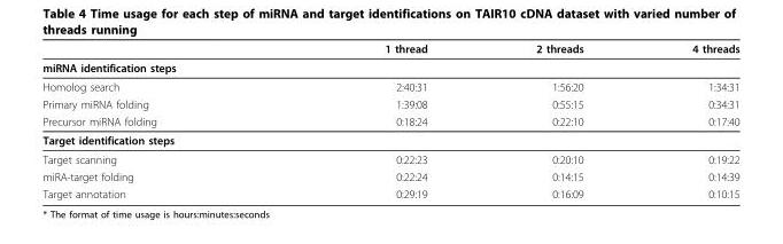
<table><thead><tr><td></td><td>1 thread</td><td>2 threads</td><td>4 threads</td></tr></thead><tbody><tr><td colspan="4">miRNA identification steps</td></tr><tr><td>Homolog search</td><td>2:40:31</td><td>1:56:20</td><td>1:34:31</td></tr><tr><td>Primary miRNA folding</td><td>1:39:08</td><td>0:55:15</td><td>0:34:31</td></tr><tr><td>Precursor miRNA folding</td><td>0:18:24</td><td>0:22:10</td><td>0:17:40</td></tr><tr><td colspan="4">Target identification steps</td></tr><tr><td>Target scanning</td><td>0:22:23</td><td>0:20:10</td><td>0:19:22</td></tr><tr><td>miRA-target folding</td><td>0:22:24</td><td>0:14:15</td><td>0:14:39</td></tr><tr><td>Target annotation</td><td>0:29:19</td><td>0:16:09</td><td>0:10:15</td></tr></tbody></table>